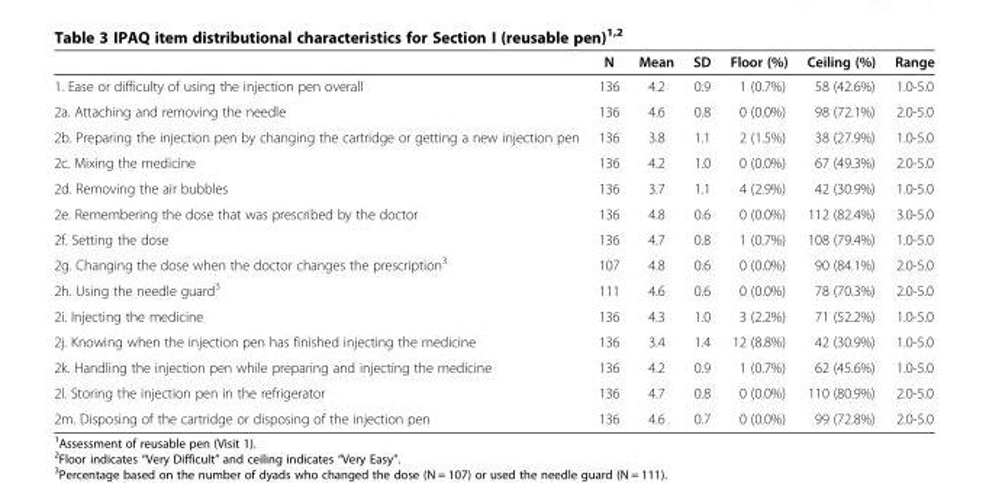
<table><thead><tr><td></td><td>N</td><td>Mean</td><td>SD</td><td>Floor (%)</td><td>Ceiling (%)</td><td>Range</td></tr></thead><tbody><tr><td>1. Ease or difficulty of using the injection pen overall</td><td>136</td><td>4.2</td><td>0.9</td><td>1 (0.7%)</td><td>58 (42.6%)</td><td>1.0-5.0</td></tr><tr><td>2a. Attaching and removing the needle</td><td>136</td><td>4.6</td><td>0.8</td><td>0 (0.0%)</td><td>98 (72.1%)</td><td>2.0-5.0</td></tr><tr><td>2b. Preparing the injection pen by changing the cartridge or getting a new injection pen</td><td>136</td><td>3.8</td><td>1.1</td><td>2 (1.5%)</td><td>38 (27.9%)</td><td>1.0-5.0</td></tr><tr><td>2c. Mixing the medicine</td><td>136</td><td>4.2</td><td>1.0</td><td>0 (0.0%)</td><td>67 (49.3%)</td><td>2.0-5.0</td></tr><tr><td>2d. Removing the air bubbles</td><td>136</td><td>3.7</td><td>1.1</td><td>4 (2.9%)</td><td>42 (30.9%)</td><td>1.0-5.0</td></tr><tr><td>2e. Remembering the dose that was prescribed by the doctor</td><td>136</td><td>4.8</td><td>0.6</td><td>0 (0.0%)</td><td>112 (82.4%)</td><td>3.0-5.0</td></tr><tr><td>2f. Setting the dose</td><td>136</td><td>4.7</td><td>0.8</td><td>1 (0.7%)</td><td>108 (79.4%)</td><td>1.0-5.0</td></tr><tr><td>2g. Changing the dose when the doctor changes the prescription<sup>3</sup></td><td>107</td><td>4.8</td><td>0.6</td><td>0 (0.0%)</td><td>90 (84.1%)</td><td>2.0-5.0</td></tr><tr><td>2h. Using the needle guard<sup>3</sup></td><td>111</td><td>4.6</td><td>0.6</td><td>0 (0.0%)</td><td>78 (70.3%)</td><td>2.0-5.0</td></tr><tr><td>2i. Injecting the medicine</td><td>136</td><td>4.3</td><td>1.0</td><td>3 (2.2%)</td><td>71 (52.2%)</td><td>1.0-5.0</td></tr><tr><td>2j. Knowing when the injection pen has finished injecting the medicine</td><td>136</td><td>3.4</td><td>1.4</td><td>12 (8.8%)</td><td>42 (30.9%)</td><td>1.0-5.0</td></tr><tr><td>2k. Handling the injection pen while preparing and injecting the medicine</td><td>136</td><td>4.2</td><td>0.9</td><td>1 (0.7%)</td><td>62 (45.6%)</td><td>1.0-5.0</td></tr><tr><td>2l. Storing the injection pen in the refrigerator</td><td>136</td><td>4.7</td><td>0.8</td><td>0 (0.0%)</td><td>110 (80.9%)</td><td>2.0-5.0</td></tr><tr><td>2m. Disposing of the cartridge or disposing of the injection pen</td><td>136</td><td>4.6</td><td>0.7</td><td>0 (0.0%)</td><td>99 (72.8%)</td><td>2.0-5.0</td></tr></tbody></table>